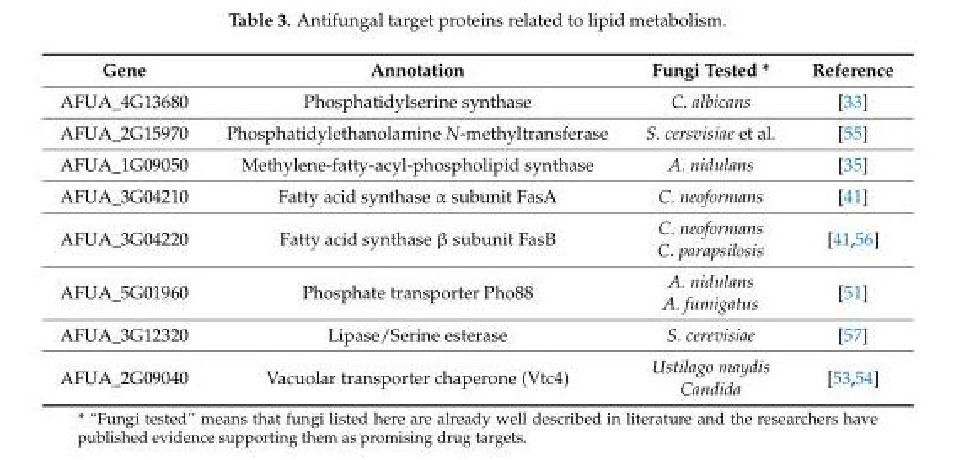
<table><thead><tr><td>Gene</td><td>Annotation</td><td>Fungi Tested *</td><td>Reference</td></tr></thead><tbody><tr><td>AFUA_4G13680</td><td>Phosphatidylserine synthase</td><td>C. albicans</td><td>[33]</td></tr><tr><td>AFUA_2G15970</td><td>Phosphatidylethanolamine N-methyltransferase</td><td>S. cersvisiae et al.</td><td>[55]</td></tr><tr><td>AFUA_1G09050</td><td>Methylene-fatty-acyl-phospholipid synthase</td><td>A. nidulans</td><td>[35]</td></tr><tr><td>AFUA_3G04210</td><td>Fatty acid synthase α subunit FasA</td><td>C. neoformans</td><td>[41]</td></tr><tr><td>AFUA_3G04220</td><td>Fatty acid synthase β subunit FasB</td><td>C. neoformans C. parapsilosis</td><td>[41,56]</td></tr><tr><td>AFUA_5G01960</td><td>Phosphate transporter Pho88</td><td>A. nidulans A. fumigatus</td><td>[51]</td></tr><tr><td>AFUA_3G12320</td><td>Lipase/Serine esterase</td><td>S. cerevisiae</td><td>[57]</td></tr><tr><td>AFUA_2G09040</td><td>Vacuolar transporter chaperone (Vtc4)</td><td>Ustilago maydis Candida</td><td>[53,54]</td></tr></tbody></table>